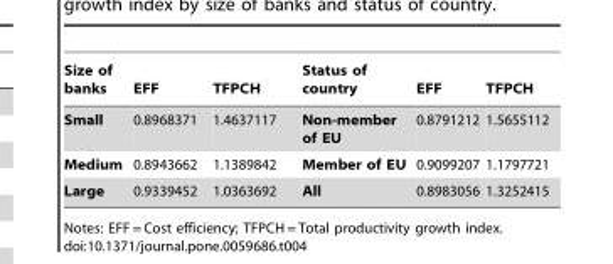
<table><thead><tr><td>Size of banks</td><td>EFF</td><td>TFPCH</td><td>Status of country</td><td>EFF</td><td>TFPCH</td></tr></thead><tbody><tr><td>Small</td><td>0.8968371</td><td>1.4637117</td><td>Non-member of EU</td><td>0.8791212</td><td>1.5655112</td></tr><tr><td>Medium</td><td>0.8943662</td><td>1.1389842</td><td>Member of EU</td><td>0.9099207</td><td>1.1797721</td></tr><tr><td>Large</td><td>0.9339452</td><td>1.0363692</td><td>All</td><td>0.8983056</td><td>1.3252415</td></tr></tbody></table>